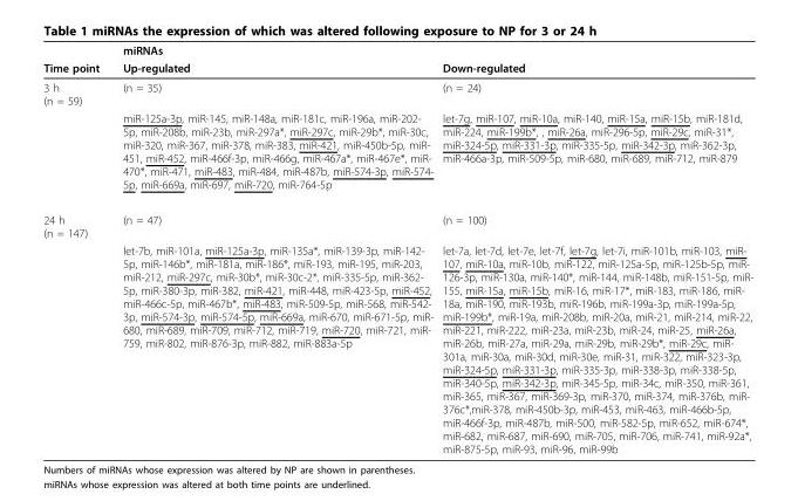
<table><thead><tr><td rowspan="2">Time point</td><td rowspan="2">miRNAs Up-regulated</td><td rowspan="2">Down-regulated</td></tr><tr></tr></thead><tbody><tr><td rowspan="2">3 h (n = 59)</td><td>(n = 35)</td><td>(n = 24)</td></tr><tr><td>miR-125a-3p, miR-145, miR-148a, miR-181c, miR-196a, miR-202- 5p, miR-208b, miR-23b, miR-297a*, miR-297c, miR-29b*, miR-30c, miR-320, miR-367, miR-378, miR-383, miR-421, miR-450b-5p, miR- 451, miR-452, miR-466f-3p, miR-466g, miR-467a*, miR-467e*, miR- 470*, miR-471, miR-483, miR-484, miR-487b, miR-574-3p, miR-574- 5p, miR-669a, miR-697, miR-720, miR-764-5p</td><td>let-7g, miR-107, miR-10a, miR-140, miR-15a, miR-15b, miR-181d, miR-224, miR-199b*, , miR-26a, miR-296-5p, miR-29c, miR-31*, miR-324-5p, miR-331-3p, miR-335-5p, miR-342-3p, miR-362-3p, miR-466a-3p, miR-509-5p, miR-680, miR-689, miR-712, miR-879</td></tr><tr><td rowspan="2">24 h (n = 147)</td><td>(n = 47)</td><td>(n = 100)</td></tr><tr><td>let-7b, miR-101a, miR-125a-3p, miR-135a*, miR-139-3p, miR-142- 5p, miR-146b*, miR-181a, miR-186*, miR-193, miR-195, miR-203, miR-212, miR-297c, miR-30b*, miR-30c-2*, miR-335-5p, miR-362- 5p, miR-380-3p, miR-382, miR-421, miR-448, miR-423-5p, miR-452, miR-466c-5p, miR-467b*, miR-483, miR-509-5p, miR-568, miR-542- 3p, miR-574-3p, miR-574-5p, miR-669a, miR-670, miR-671-5p, miR- 680, miR-689, miR-709, miR-712, miR-719, miR-720, miR-721, miR- 759, miR-802, miR-876-3p, miR-882, miR-883a-5p</td><td>let-7a, let-7d, let-7e, let-7f, let-7g, let-7i, miR-101b, miR-103, miR- 107, miR-10a, miR-10b, miR-122, miR-125a-5p, miR-125b-5p, miR- 126-3p, miR-130a, miR-140*, miR-144, miR-148b, miR-151-5p, miR- 155, miR-15a, miR-15b, miR-16, miR-17*, miR-183, miR-186, miR- 18a, miR-190, miR-193b, miR-196b, miR-199a-3p, miR-199a-5p, miR-199b*, miR-19a, miR-208b, miR-20a, miR-21, miR-214, miR-22, miR-221, miR-222, miR-23a, miR-23b, miR-24, miR-25, miR-26a, miR-26b, miR-27a, miR-29a, miR-29b, miR-29b*, miR-29c, miR- 301a, miR-30a, miR-30d, miR-30e, miR-31, miR-322, miR-323-3p, miR-324-5p, miR-331-3p, miR-335-3p, miR-338-3p, miR-338-5p, miR-340-5p, miR-342-3p, miR-345-5p, miR-34c, miR-350, miR-361, miR-365, miR-367, miR-369-3p, miR-370, miR-374, miR-376b, miR- 376c*,miR-378, miR-450b-3p, miR-453, miR-463, miR-466b-5p, miR-466f-3p, miR-487b, miR-500, miR-582-5p, miR-652, miR-674*, miR-682, miR-687, miR-690, miR-705, miR-706, miR-741, miR-92a*, miR-875-5p, miR-93, miR-96, miR-99b</td></tr></tbody></table>